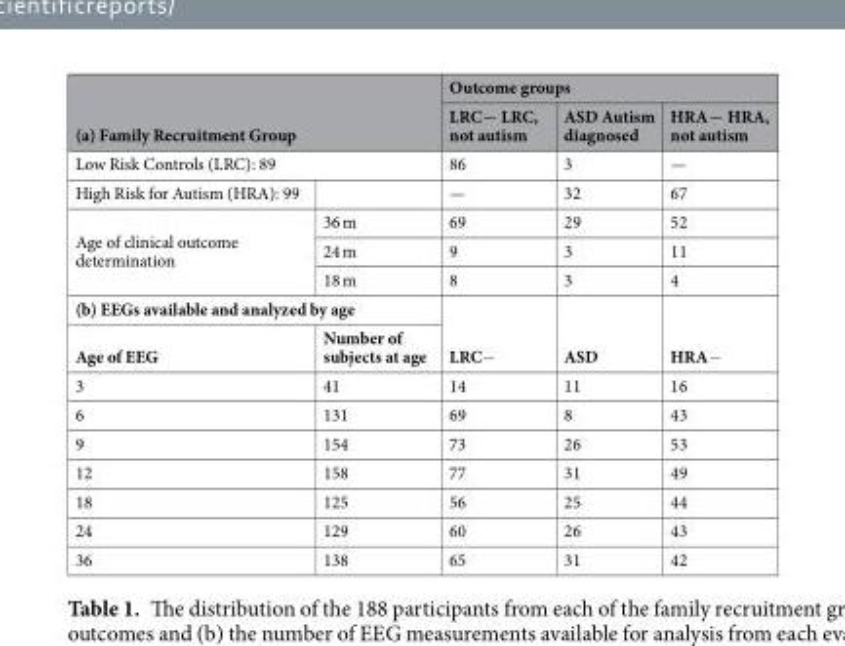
<table><thead><tr><td rowspan="3" colspan="2">(a) Family Recruitment Group Low Risk Controls (LRC): 89</td><td colspan="3">Outcome groups</td></tr><tr><td rowspan="3">LRC− LRC, not autism 86 —</td><td rowspan="3">ASD Autism diagnosed 3 32</td><td rowspan="3">HRA− HRA, not autism — 67</td></tr><tr></tr><tr><td>High Risk for Autism (HRA): 99</td><td></td></tr></thead><tbody><tr><td rowspan="3">Age of clinical outcome determination</td><td>36 m</td><td>69</td><td>29</td><td>52</td></tr><tr><td>24 m</td><td>9</td><td>3</td><td>11</td></tr><tr><td>18 m</td><td>8</td><td>3</td><td>4</td></tr><tr><td colspan="2">(b) EEGs available and analyzed by age</td><td rowspan="2">LRC−</td><td rowspan="2">ASD</td><td rowspan="2">HRA−</td></tr><tr><td>Age of EEG</td><td>Number of subjects at age</td></tr><tr><td>3</td><td>41</td><td>14</td><td>11</td><td>16</td></tr><tr><td>6</td><td>131</td><td>69</td><td>8</td><td>43</td></tr><tr><td>9</td><td>154</td><td>73</td><td>26</td><td>53</td></tr><tr><td>12</td><td>158</td><td>77</td><td>31</td><td>49</td></tr><tr><td>18</td><td>125</td><td>56</td><td>25</td><td>44</td></tr><tr><td>24</td><td>129</td><td>60</td><td>26</td><td>43</td></tr><tr><td>36</td><td>138</td><td>65</td><td>31</td><td>42</td></tr></tbody></table>